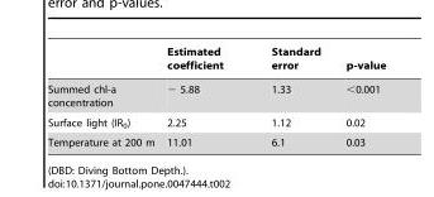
<table><thead><tr><td></td><td>Estimated coefficient</td><td>Standard error</td><td>p-value</td></tr></thead><tbody><tr><td>Summed chl-a concentration</td><td>− 5.88</td><td>1.33</td><td>&lt;0.001</td></tr><tr><td>Surface light (IR<sub>0</sub>)</td><td>2.25</td><td>1.12</td><td>0.02</td></tr><tr><td>Temperature at 200 m</td><td>11.01</td><td>6.1</td><td>0.03</td></tr></tbody></table>